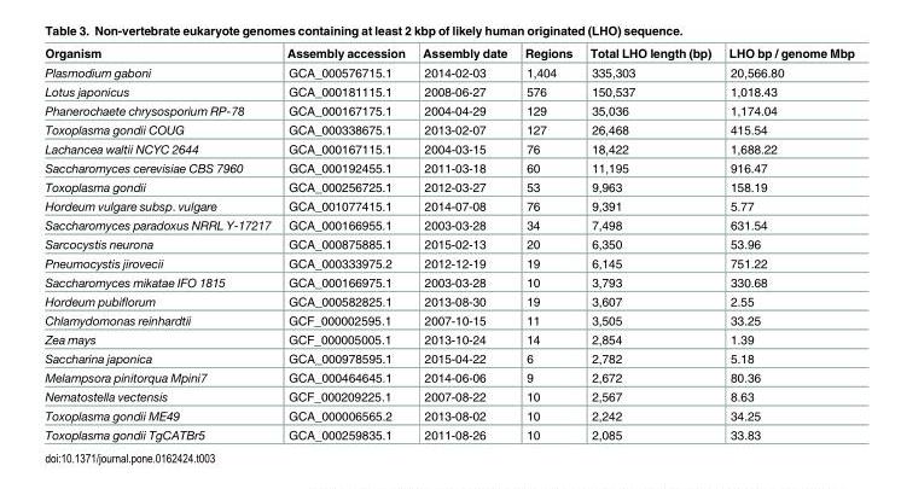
<table><thead><tr><td>Organism</td><td>Assembly accession</td><td>Assembly date</td><td>Regions</td><td>Total LHO length (bp)</td><td>LHO bp / genome Mbp</td></tr></thead><tbody><tr><td>Plasmodium gaboni</td><td>GCA_000576715.1</td><td>2014-02-03</td><td>1,404</td><td>335,303</td><td>20,566.80</td></tr><tr><td>Lotus japonicus</td><td>GCA_000181115.1</td><td>2008-06-27</td><td>576</td><td>150,537</td><td>1,018.43</td></tr><tr><td>Phanerochaete chrysosporium RP-78</td><td>GCA_000167175.1</td><td>2004-04-29</td><td>129</td><td>35,036</td><td>1,174.04</td></tr><tr><td>Toxoplasma gondii COUG</td><td>GCA_000338675.1</td><td>2013-02-07</td><td>127</td><td>26,468</td><td>415.54</td></tr><tr><td>Lachancea waltii NCYC 2644</td><td>GCA_000167115.1</td><td>2004-03-15</td><td>76</td><td>18,422</td><td>1,688.22</td></tr><tr><td>Saccharomyces cerevisiae CBS 7960</td><td>GCA_000192455.1</td><td>2011-03-18</td><td>60</td><td>11,195</td><td>916.47</td></tr><tr><td>Toxoplasma gondii</td><td>GCA_000256725.1</td><td>2012-03-27</td><td>53</td><td>9,963</td><td>158.19</td></tr><tr><td>Hordeum vulgare subsp. vulgare</td><td>GCA_001077415.1</td><td>2014-07-08</td><td>76</td><td>9,391</td><td>5.77</td></tr><tr><td>Saccharomyces paradoxus NRRL Y-17217</td><td>GCA_000166955.1</td><td>2003-03-28</td><td>34</td><td>7,498</td><td>631.54</td></tr><tr><td>Sarcocystis neurona</td><td>GCA_000875885.1</td><td>2015-02-13</td><td>20</td><td>6,350</td><td>53.96</td></tr><tr><td>Pneumocystis jirovecii</td><td>GCA_000333975.2</td><td>2012-12-19</td><td>19</td><td>6,145</td><td>751.22</td></tr><tr><td>Saccharomyces mikatae IFO 1815</td><td>GCA_000166975.1</td><td>2003-03-28</td><td>10</td><td>3,793</td><td>330.68</td></tr><tr><td>Hordeum pubiflorum</td><td>GCA_000582825.1</td><td>2013-08-30</td><td>19</td><td>3,607</td><td>2.55</td></tr><tr><td>Chlamydomonas reinhardtii</td><td>GCF_000002595.1</td><td>2007-10-15</td><td>11</td><td>3,505</td><td>33.25</td></tr><tr><td>Zea mays</td><td>GCF_000005005.1</td><td>2013-10-24</td><td>14</td><td>2,854</td><td>1.39</td></tr><tr><td>Saccharina japonica</td><td>GCA_000978595.1</td><td>2015-04-22</td><td>6</td><td>2,782</td><td>5.18</td></tr><tr><td>Melampsora pinitorqua Mpini7</td><td>GCA_000464645.1</td><td>2014-06-06</td><td>9</td><td>2,672</td><td>80.36</td></tr><tr><td>Nematostella vectensis</td><td>GCF_000209225.1</td><td>2007-08-22</td><td>10</td><td>2,567</td><td>8.63</td></tr><tr><td>Toxoplasma gondii ME49</td><td>GCA_000006565.2</td><td>2013-08-02</td><td>10</td><td>2,242</td><td>34.25</td></tr><tr><td>Toxoplasma gondii TgCATBr5</td><td>GCA_000259835.1</td><td>2011-08-26</td><td>10</td><td>2,085</td><td>33.83</td></tr></tbody></table>